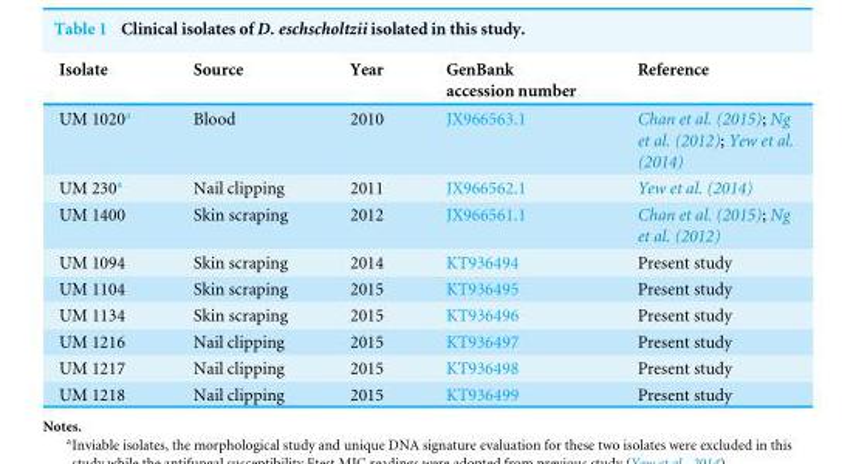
<table><thead><tr><td>Isolate</td><td>Source</td><td>Year</td><td>GenBank accession number</td><td>Reference</td></tr></thead><tbody><tr><td>UM 1020<sup>a</sup></td><td>Blood</td><td>2010</td><td>JX966563.1</td><td>Chan et al. (2015); Ng et al. (2012); Yew et al. (2014)</td></tr><tr><td>UM 230<sup>a</sup></td><td>Nail clipping</td><td>2011</td><td>JX966562.1</td><td>Yew et al. (2014)</td></tr><tr><td>UM 1400</td><td>Skin scraping</td><td>2012</td><td>JX966561.1</td><td>Chan et al. (2015); Ng et al. (2012)</td></tr><tr><td>UM 1094</td><td>Skin scraping</td><td>2014</td><td>KT936494</td><td>Present study</td></tr><tr><td>UM 1104</td><td>Skin scraping</td><td>2015</td><td>KT936495</td><td>Present study</td></tr><tr><td>UM 1134</td><td>Skin scraping</td><td>2015</td><td>KT936496</td><td>Present study</td></tr><tr><td>UM 1216</td><td>Nail clipping</td><td>2015</td><td>KT936497</td><td>Present study</td></tr><tr><td>UM 1217</td><td>Nail clipping</td><td>2015</td><td>KT936498</td><td>Present study</td></tr><tr><td>UM 1218</td><td>Nail clipping</td><td>2015</td><td>KT936499</td><td>Present study</td></tr></tbody></table>